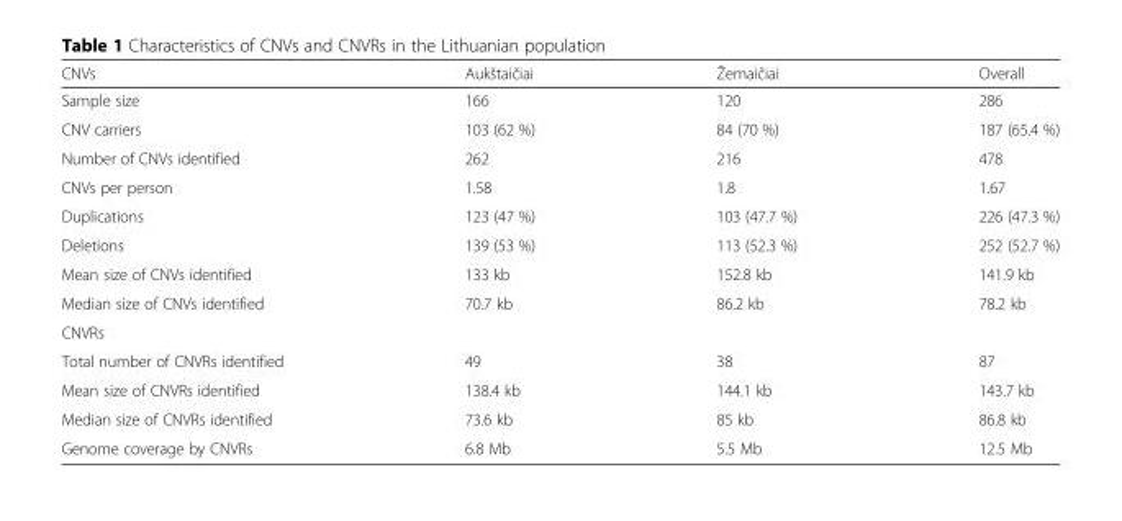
<table><thead><tr><td>CNVs</td><td>Aukštaičiai</td><td>Žemaičiai</td><td>Overall</td></tr></thead><tbody><tr><td>Sample size</td><td>166</td><td>120</td><td>286</td></tr><tr><td>CNV carriers</td><td>103 (62 %)</td><td>84 (70 %)</td><td>187 (65.4 %)</td></tr><tr><td>Number of CNVs identified</td><td>262</td><td>216</td><td>478</td></tr><tr><td>CNVs per person</td><td>1.58</td><td>1.8</td><td>1.67</td></tr><tr><td>Duplications</td><td>123 (47 %)</td><td>103 (47.7 %)</td><td>226 (47.3 %)</td></tr><tr><td>Deletions</td><td>139 (53 %)</td><td>113 (52.3 %)</td><td>252 (52.7 %)</td></tr><tr><td>Mean size of CNVs identified</td><td>133 kb</td><td>152.8 kb</td><td>141.9 kb</td></tr><tr><td>Median size of CNVs identified</td><td>70.7 kb</td><td>86.2 kb</td><td>78.2 kb</td></tr><tr><td colspan="4">CNVRs</td></tr><tr><td>Total number of CNVRs identified</td><td>49</td><td>38</td><td>87</td></tr><tr><td>Mean size of CNVRs identified</td><td>138.4 kb</td><td>144.1 kb</td><td>143.7 kb</td></tr><tr><td>Median size of CNVRs identified</td><td>73.6 kb</td><td>85 kb</td><td>86.8 kb</td></tr><tr><td>Genome coverage by CNVRs</td><td>6.8 Mb</td><td>5.5 Mb</td><td>12.5 Mb</td></tr></tbody></table>